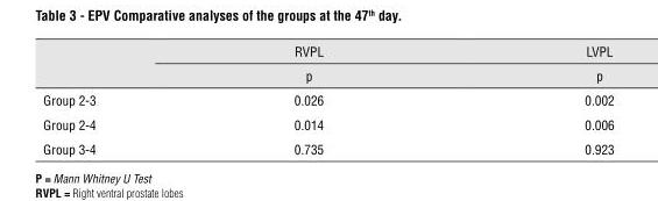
<table><thead><tr><td rowspan="2"></td><td rowspan="2">RVPL p</td><td rowspan="2">LVPL p</td></tr><tr></tr></thead><tbody><tr><td>Group 2-3</td><td>0.026</td><td>0.002</td></tr><tr><td>Group 2-4</td><td>0.014</td><td>0.006</td></tr><tr><td>Group 3-4</td><td>0.735</td><td>0.923</td></tr></tbody></table>